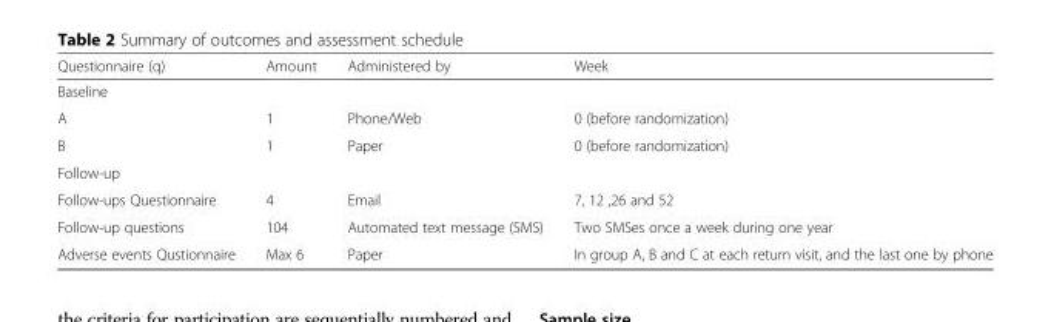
<table><thead><tr><td>Questionnaire (q)</td><td>Amount</td><td>Administered by</td><td>Week</td></tr></thead><tbody><tr><td colspan="4">Baseline</td></tr><tr><td>A</td><td>1</td><td>Phone/Web</td><td>0 (before randomization)</td></tr><tr><td>B</td><td>1</td><td>Paper</td><td>0 (before randomization)</td></tr><tr><td colspan="4">Follow-up</td></tr><tr><td>Follow-ups Questionnaire</td><td>4</td><td>Email</td><td>7, 12 ,26 and 52</td></tr><tr><td>Follow-up questions</td><td>104</td><td>Automated text message (SMS)</td><td>Two SMSes once a week during one year</td></tr><tr><td>Adverse events Qustionnaire</td><td>Max 6</td><td>Paper</td><td>In group A, B and C at each return visit, and the last one by phone</td></tr></tbody></table>